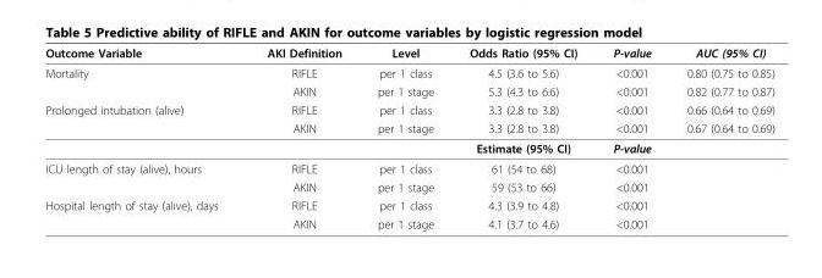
<table><thead><tr><td>Outcome Variable</td><td>AKI Definition</td><td>Level</td><td>Odds Ratio (95% CI)</td><td>P-value</td><td>AUC (95% CI)</td></tr></thead><tbody><tr><td rowspan="2">Mortality</td><td>RIFLE</td><td>per 1 class</td><td>4.5 (3.6 to 5.6)</td><td>&lt;0.001</td><td>0.80 (0.75 to 0.85)</td></tr><tr><td>AKIN</td><td>per 1 stage</td><td>5.3 (4.3 to 6.6)</td><td>&lt;0.001</td><td>0.82 (0.77 to 0.87)</td></tr><tr><td rowspan="3">Prolonged intubation (alive)</td><td>RIFLE</td><td>per 1 class</td><td>3.3 (2.8 to 3.8)</td><td>&lt;0.001</td><td>0.66 (0.64 to 0.69)</td></tr><tr><td>AKIN</td><td>per 1 stage</td><td>3.3 (2.8 to 3.8)</td><td>&lt;0.001</td><td>0.67 (0.64 to 0.69)</td></tr><tr><td></td><td></td><td>Estimate (95% CI)</td><td>P-value</td><td></td></tr><tr><td rowspan="2">ICU length of stay (alive), hours</td><td>RIFLE</td><td>per 1 class</td><td>61 (54 to 68)</td><td>&lt;0.001</td><td></td></tr><tr><td>AKIN</td><td>per 1 stage</td><td>59 (53 to 66)</td><td>&lt;0.001</td><td></td></tr><tr><td rowspan="2">Hospital length of stay (alive), days</td><td>RIFLE</td><td>per 1 class</td><td>4.3 (3.9 to 4.8)</td><td>&lt;0.001</td><td></td></tr><tr><td>AKIN</td><td>per 1 stage</td><td>4.1 (3.7 to 4.6)</td><td>&lt;0.001</td><td></td></tr></tbody></table>